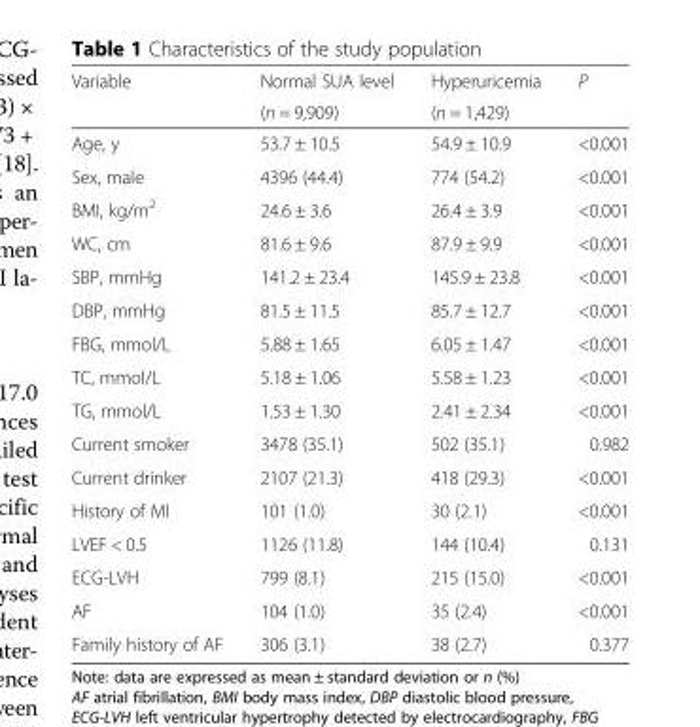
<table><thead><tr><td rowspan="2">Variable</td><td rowspan="2">Normal SUA level (n = 9,909)</td><td rowspan="2">Hyperuricemia (n = 1,429)</td><td rowspan="2">P</td></tr><tr></tr></thead><tbody><tr><td>Age, y</td><td>53.7 ± 10.5</td><td>54.9 ± 10.9</td><td>&lt;0.001</td></tr><tr><td>Sex, male</td><td>4396 (44.4)</td><td>774 (54.2)</td><td>&lt;0.001</td></tr><tr><td>BMI, kg/m<sup>2</sup></td><td>24.6 ± 3.6</td><td>26.4 ± 3.9</td><td>&lt;0.001</td></tr><tr><td>WC, cm</td><td>81.6 ± 9.6</td><td>87.9 ± 9.9</td><td>&lt;0.001</td></tr><tr><td>SBP, mmHg</td><td>141.2 ± 23.4</td><td>145.9 ± 23.8</td><td>&lt;0.001</td></tr><tr><td>DBP, mmHg</td><td>81.5 ± 11.5</td><td>85.7 ± 12.7</td><td>&lt;0.001</td></tr><tr><td>FBG, mmol/L</td><td>5.88 ± 1.65</td><td>6.05 ± 1.47</td><td>&lt;0.001</td></tr><tr><td>TC, mmol/L</td><td>5.18 ± 1.06</td><td>5.58 ± 1.23</td><td>&lt;0.001</td></tr><tr><td>TG, mmol/L</td><td>1.53 ± 1.30</td><td>2.41 ± 2.34</td><td>&lt;0.001</td></tr><tr><td>Current smoker</td><td>3478 (35.1)</td><td>502 (35.1)</td><td>0.982</td></tr><tr><td>Current drinker</td><td>2107 (21.3)</td><td>418 (29.3)</td><td>&lt;0.001</td></tr><tr><td>History of MI</td><td>101 (1.0)</td><td>30 (2.1)</td><td>&lt;0.001</td></tr><tr><td>LVEF &lt; 0.5</td><td>1126 (11.8)</td><td>144 (10.4)</td><td>0.131</td></tr><tr><td>ECG-LVH</td><td>799 (8.1)</td><td>215 (15.0)</td><td>&lt;0.001</td></tr><tr><td>AF</td><td>104 (1.0)</td><td>35 (2.4)</td><td>&lt;0.001</td></tr><tr><td>Family history of AF</td><td>306 (3.1)</td><td>38 (2.7)</td><td>0.377</td></tr></tbody></table>